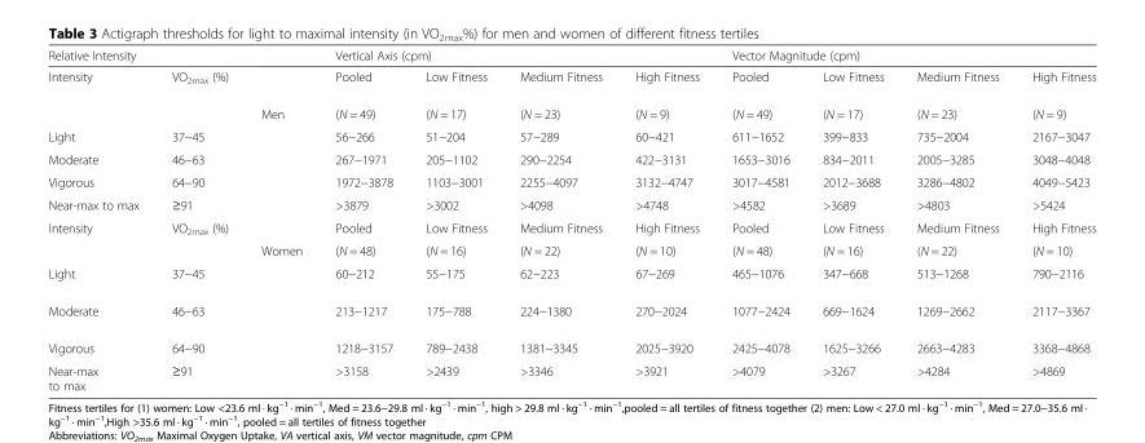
<table><thead><tr><td colspan="2">Relative Intensity</td><td rowspan="2"></td><td colspan="4">Vertical Axis (cpm)</td><td colspan="4">Vector Magnitude (cpm)</td></tr><tr><td>Intensity</td><td>VO<sub>2max</sub> (%)</td><td>Pooled</td><td>Low Fitness</td><td>Medium Fitness</td><td>High Fitness</td><td>Pooled</td><td>Low Fitness</td><td>Medium Fitness</td><td>High Fitness</td></tr></thead><tbody><tr><td></td><td></td><td>Men</td><td>(N = 49)</td><td>(N = 17)</td><td>(N = 23)</td><td>(N = 9)</td><td>(N = 49)</td><td>(N = 17)</td><td>(N = 23)</td><td>(N = 9)</td></tr><tr><td>Light</td><td>37−45</td><td></td><td>56−266</td><td>51−204</td><td>57−289</td><td>60−421</td><td>611−1652</td><td>399−833</td><td>735−2004</td><td>2167−3047</td></tr><tr><td>Moderate</td><td>46−63</td><td></td><td>267−1971</td><td>205−1102</td><td>290−2254</td><td>422−3131</td><td>1653−3016</td><td>834−2011</td><td>2005−3285</td><td>3048−4048</td></tr><tr><td>Vigorous</td><td>64−90</td><td></td><td>1972−3878</td><td>1103−3001</td><td>2255−4097</td><td>3132−4747</td><td>3017−4581</td><td>2012−3688</td><td>3286−4802</td><td>4049−5423</td></tr><tr><td>Near-max to max</td><td>≥91</td><td></td><td>&gt;3879</td><td>&gt;3002</td><td>&gt;4098</td><td>&gt;4748</td><td>&gt;4582</td><td>&gt;3689</td><td>&gt;4803</td><td>&gt;5424</td></tr><tr><td rowspan="2">Intensity</td><td>VO<sub>2max</sub> (%)</td><td></td><td>Pooled</td><td>Low Fitness</td><td>Medium Fitness</td><td>High Fitness</td><td>Pooled</td><td>Low Fitness</td><td>Medium Fitness</td><td>High Fitness</td></tr><tr><td></td><td>Women</td><td>(N = 48)</td><td>(N = 16)</td><td>(N = 22)</td><td>(N = 10)</td><td>(N = 48)</td><td>(N = 16)</td><td>(N = 22)</td><td>(N = 10)</td></tr><tr><td>Light</td><td>37−45</td><td></td><td>60−212</td><td>55−175</td><td>62−223</td><td>67−269</td><td>465−1076</td><td>347−668</td><td>513−1268</td><td>790−2116</td></tr><tr><td>Moderate</td><td>46−63</td><td></td><td>213−1217</td><td>175−788</td><td>224−1380</td><td>270−2024</td><td>1077−2424</td><td>669−1624</td><td>1269−2662</td><td>2117−3367</td></tr><tr><td>Vigorous</td><td>64−90</td><td></td><td>1218−3157</td><td>789−2438</td><td>1381−3345</td><td>2025−3920</td><td>2425−4078</td><td>1625−3266</td><td>2663−4283</td><td>3368−4868</td></tr><tr><td>Near-max to max</td><td>≥91</td><td></td><td>&gt;3158</td><td>&gt;2439</td><td>&gt;3346</td><td>&gt;3921</td><td>&gt;4079</td><td>&gt;3267</td><td>&gt;4284</td><td>&gt;4869</td></tr></tbody></table>